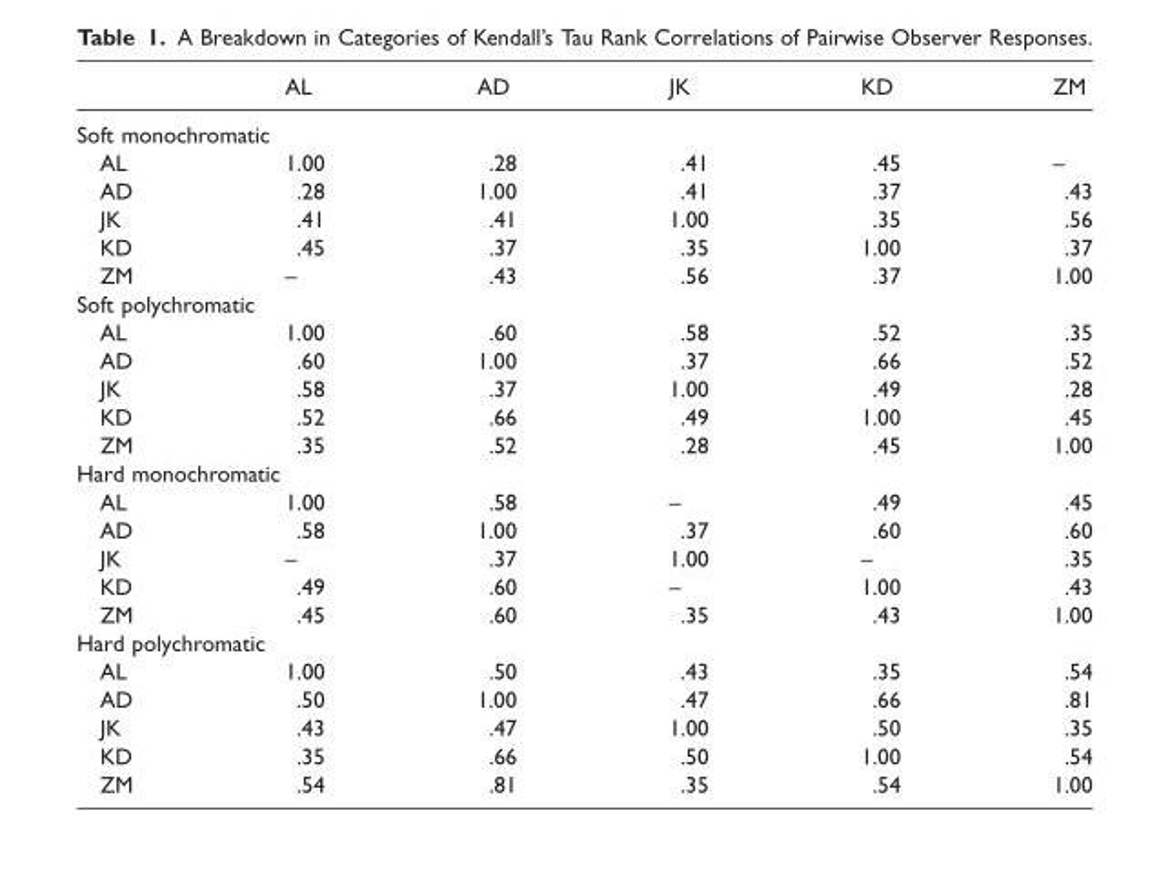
<table><thead><tr><td></td><td>AL</td><td>AD</td><td>JK</td><td>KD</td><td>ZM</td></tr></thead><tbody><tr><td colspan="6">Soft monochromatic</td></tr><tr><td>AL</td><td>1.00</td><td>.28</td><td>.41</td><td>.45</td><td>–</td></tr><tr><td>AD</td><td>.28</td><td>1.00</td><td>.41</td><td>.37</td><td>.43</td></tr><tr><td>JK</td><td>.41</td><td>.41</td><td>1.00</td><td>.35</td><td>.56</td></tr><tr><td>KD</td><td>.45</td><td>.37</td><td>.35</td><td>1.00</td><td>.37</td></tr><tr><td>ZM</td><td>–</td><td>.43</td><td>.56</td><td>.37</td><td>1.00</td></tr><tr><td colspan="6">Soft polychromatic</td></tr><tr><td>AL</td><td>1.00</td><td>.60</td><td>.58</td><td>.52</td><td>.35</td></tr><tr><td>AD</td><td>.60</td><td>1.00</td><td>.37</td><td>.66</td><td>.52</td></tr><tr><td>JK</td><td>.58</td><td>.37</td><td>1.00</td><td>.49</td><td>.28</td></tr><tr><td>KD</td><td>.52</td><td>.66</td><td>.49</td><td>1.00</td><td>.45</td></tr><tr><td>ZM</td><td>.35</td><td>.52</td><td>.28</td><td>.45</td><td>1.00</td></tr><tr><td colspan="6">Hard monochromatic</td></tr><tr><td>AL</td><td>1.00</td><td>.58</td><td>–</td><td>.49</td><td>.45</td></tr><tr><td>AD</td><td>.58</td><td>1.00</td><td>.37</td><td>.60</td><td>.60</td></tr><tr><td>JK</td><td>–</td><td>.37</td><td>1.00</td><td>–</td><td>.35</td></tr><tr><td>KD</td><td>.49</td><td>.60</td><td>–</td><td>1.00</td><td>.43</td></tr><tr><td>ZM</td><td>.45</td><td>.60</td><td>.35</td><td>.43</td><td>1.00</td></tr><tr><td colspan="6">Hard polychromatic</td></tr><tr><td>AL</td><td>1.00</td><td>.50</td><td>.43</td><td>.35</td><td>.54</td></tr><tr><td>AD</td><td>.50</td><td>1.00</td><td>.47</td><td>.66</td><td>.81</td></tr><tr><td>JK</td><td>.43</td><td>.47</td><td>1.00</td><td>.50</td><td>.35</td></tr><tr><td>KD</td><td>.35</td><td>.66</td><td>.50</td><td>1.00</td><td>.54</td></tr><tr><td>ZM</td><td>.54</td><td>.81</td><td>.35</td><td>.54</td><td>1.00</td></tr></tbody></table>